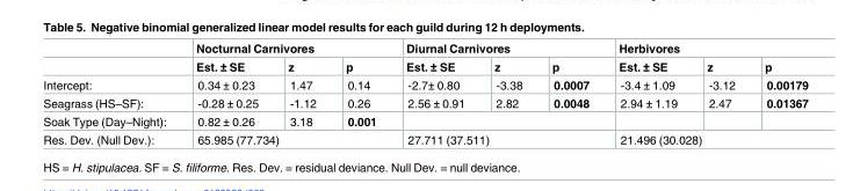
<table><thead><tr><td rowspan="2"></td><td colspan="3">Nocturnal Carnivores</td><td colspan="3">Diurnal Carnivores</td><td colspan="3">Herbivores</td></tr><tr><td>Est. ± SE</td><td>z</td><td>p</td><td>Est. ± SE</td><td>z</td><td>p</td><td>Est. ± SE</td><td>z</td><td>p</td></tr></thead><tbody><tr><td>Intercept:</td><td>0.34 ± 0.23</td><td>1.47</td><td>0.14</td><td>-2.7± 0.80</td><td>-3.38</td><td>0.0007</td><td>-3.4 ± 1.09</td><td>-3.12</td><td>0.00179</td></tr><tr><td>Seagrass (HS–SF):</td><td>-0.28 ± 0.25</td><td>-1.12</td><td>0.26</td><td>2.56 ± 0.91</td><td>2.82</td><td>0.0048</td><td>2.94 ± 1.19</td><td>2.47</td><td>0.01367</td></tr><tr><td>Soak Type (Day–Night):</td><td>0.82 ± 0.26</td><td>3.18</td><td>0.001</td><td colspan="3"></td><td></td><td></td><td></td></tr><tr><td>Res. Dev. (Null Dev.):</td><td colspan="3">65.985 (77.734)</td><td colspan="3">27.711 (37.511)</td><td colspan="3">21.496 (30.028)</td></tr></tbody></table>